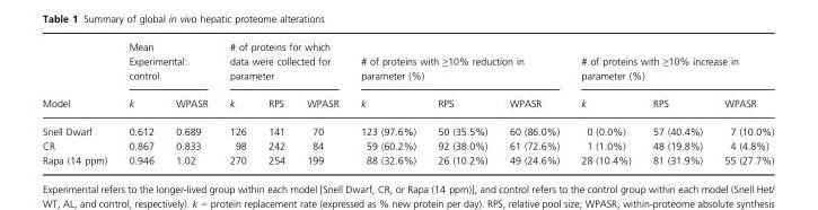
<table><thead><tr><td rowspan="2">Model</td><td colspan="2">Mean Experimental: control</td><td colspan="3"># of proteins for which data were collected for parameter</td><td colspan="3"># of proteins with ≥10% reduction in parameter (%)</td><td colspan="3"># of proteins with ≥10% increase in parameter (%)</td></tr><tr><td>k</td><td>WPASR</td><td>k</td><td>RPS</td><td>WPASR</td><td>k</td><td>RPS</td><td>WPASR</td><td>k</td><td>RPS</td><td>WPASR</td></tr></thead><tbody><tr><td>Snell Dwarf</td><td>0.612</td><td>0.689</td><td>126</td><td>141</td><td>70</td><td>123 (97.6%)</td><td>50 (35.5%)</td><td>60 (86.0%)</td><td>0 (0.0%)</td><td>57 (40.4%)</td><td>7 (10.0%)</td></tr><tr><td>CR</td><td>0.867</td><td>0.833</td><td>98</td><td>242</td><td>84</td><td>59 (60.2%)</td><td>92 (38.0%)</td><td>61 (72.6%)</td><td>1 (1.0%)</td><td>48 (19.8%)</td><td>4 (4.8%)</td></tr><tr><td>Rapa (14 ppm)</td><td>0.946</td><td>1.02</td><td>270</td><td>254</td><td>199</td><td>88 (32.6%)</td><td>26 (10.2%)</td><td>49 (24.6%)</td><td>28 (10.4%)</td><td>81 (31.9%)</td><td>55 (27.7%)</td></tr></tbody></table>